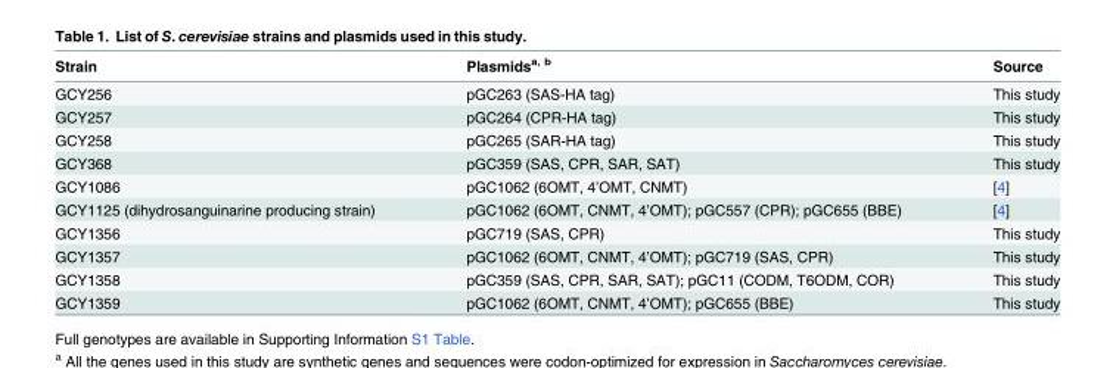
<table><thead><tr><td>Strain</td><td>Plasmids<sup>a, b</sup></td><td>Source</td></tr></thead><tbody><tr><td>GCY256</td><td>pGC263 (SAS-HA tag)</td><td>This study</td></tr><tr><td>GCY257</td><td>pGC264 (CPR-HA tag)</td><td>This study</td></tr><tr><td>GCY258</td><td>pGC265 (SAR-HA tag)</td><td>This study</td></tr><tr><td>GCY368</td><td>pGC359 (SAS, CPR, SAR, SAT)</td><td>This study</td></tr><tr><td>GCY1086</td><td>pGC1062 (6OMT, 4’OMT, CNMT)</td><td>[4]</td></tr><tr><td>GCY1125 (dihydrosanguinarine producing strain)</td><td>pGC1062 (6OMT, CNMT, 4’OMT); pGC557 (CPR); pGC655 (BBE)</td><td>[4]</td></tr><tr><td>GCY1356</td><td>pGC719 (SAS, CPR)</td><td>This study</td></tr><tr><td>GCY1357</td><td>pGC1062 (6OMT, CNMT, 4’OMT); pGC719 (SAS, CPR)</td><td>This study</td></tr><tr><td>GCY1358</td><td>pGC359 (SAS, CPR, SAR, SAT); pGC11 (CODM, T6ODM, COR)</td><td>This study</td></tr><tr><td>GCY1359</td><td>pGC1062 (6OMT, CNMT, 4’OMT); pGC655 (BBE)</td><td>This study</td></tr></tbody></table>